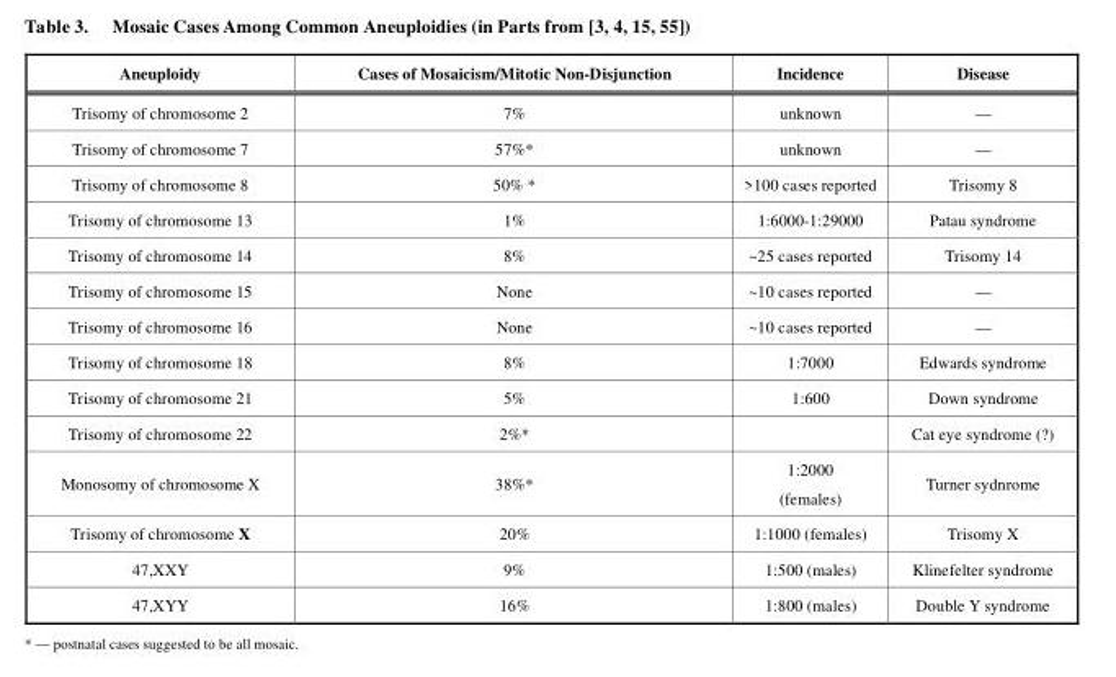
<table><thead><tr><td>Aneuploidy</td><td>Cases of Mosaicism/Mitotic Non-Disjunction</td><td>Incidence</td><td>Disease</td></tr></thead><tbody><tr><td>Trisomy of chromosome 2</td><td>7%</td><td>unknown</td><td>—</td></tr><tr><td>Trisomy of chromosome 7</td><td>57%*</td><td>unknown</td><td>—</td></tr><tr><td>Trisomy of chromosome 8</td><td>50% *</td><td>&gt;100 cases reported</td><td>Trisomy 8</td></tr><tr><td>Trisomy of chromosome 13</td><td>1%</td><td>1:6000-1:29000</td><td>Patau syndrome</td></tr><tr><td>Trisomy of chromosome 14</td><td>8%</td><td>~25 cases reported</td><td>Trisomy 14</td></tr><tr><td>Trisomy of chromosome 15</td><td>None</td><td>~10 cases reported</td><td>—</td></tr><tr><td>Trisomy of chromosome 16</td><td>None</td><td>~10 cases reported</td><td>—</td></tr><tr><td>Trisomy of chromosome 18</td><td>8%</td><td>1:7000</td><td>Edwards syndrome</td></tr><tr><td>Trisomy of chromosome 21</td><td>5%</td><td>1:600</td><td>Down syndrome</td></tr><tr><td>Trisomy of chromosome 22</td><td>2%*</td><td></td><td>Cat eye syndrome (?)</td></tr><tr><td>Monosomy of chromosome X</td><td>38%*</td><td>1:2000 (females)</td><td>Turner sydnrome</td></tr><tr><td>Trisomy of chromosome X</td><td>20%</td><td>1:1000 (females)</td><td>Trisomy X</td></tr><tr><td>47,XXY</td><td>9%</td><td>1:500 (males)</td><td>Klinefelter syndrome</td></tr><tr><td>47,XYY</td><td>16%</td><td>1:800 (males)</td><td>Double Y syndrome</td></tr></tbody></table>